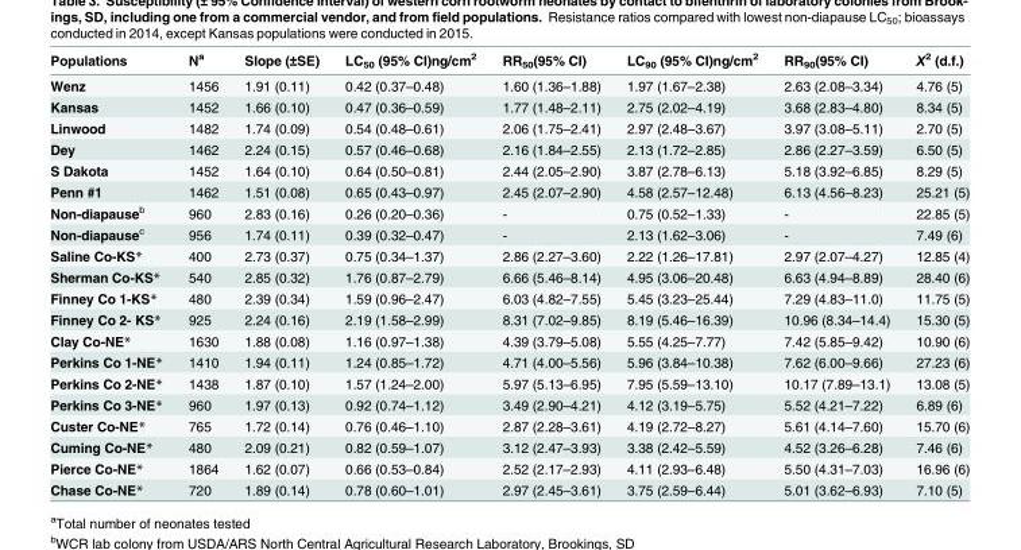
<table><thead><tr><td>Populations</td><td>N<sup>a</sup></td><td>Slope (±SE)</td><td>LC<sub>50</sub> (95% CI)ng/cm<sup>2</sup></td><td>RR<sub>50</sub>(95% CI)</td><td>LC<sub>90</sub> (95% CI)ng/cm<sup>2</sup></td><td>RR<sub>90</sub>(95% CI)</td><td>X<sup>2</sup> (d.f.)</td></tr></thead><tbody><tr><td>Wenz</td><td>1456</td><td>1.91 (0.11)</td><td>0.42 (0.37–0.48)</td><td>1.60 (1.36–1.88)</td><td>1.97 (1.67–2.38)</td><td>2.63 (2.08–3.34)</td><td>4.76 (5)</td></tr><tr><td>Kansas</td><td>1452</td><td>1.66 (0.10)</td><td>0.47 (0.36–0.59)</td><td>1.77 (1.48–2.11)</td><td>2.75 (2.02–4.19)</td><td>3.68 (2.83–4.80)</td><td>8.34 (5)</td></tr><tr><td>Linwood</td><td>1482</td><td>1.74 (0.09)</td><td>0.54 (0.48–0.61)</td><td>2.06 (1.75–2.41)</td><td>2.97 (2.48–3.67)</td><td>3.97 (3.08–5.11)</td><td>2.70 (5)</td></tr><tr><td>Dey</td><td>1462</td><td>2.24 (0.15)</td><td>0.57 (0.46–0.68)</td><td>2.16 (1.84–2.55)</td><td>2.13 (1.72–2.85)</td><td>2.86 (2.27–3.59)</td><td>6.50 (5)</td></tr><tr><td>S Dakota</td><td>1452</td><td>1.64 (0.10)</td><td>0.64 (0.50–0.81)</td><td>2.44 (2.05–2.90)</td><td>3.87 (2.78–6.13)</td><td>5.18 (3.92–6.85)</td><td>8.29 (5)</td></tr><tr><td>Penn #1</td><td>1462</td><td>1.51 (0.08)</td><td>0.65 (0.43–0.97)</td><td>2.45 (2.07–2.90)</td><td>4.58 (2.57–12.48)</td><td>6.13 (4.56–8.23)</td><td>25.21 (5)</td></tr><tr><td>Non-diapause<sup>b</sup></td><td>960</td><td>2.83 (0.16)</td><td>0.26 (0.20–0.36)</td><td>-</td><td>0.75 (0.52–1.33)</td><td>-</td><td>22.85 (5)</td></tr><tr><td>Non-diapause<sup>c</sup></td><td>956</td><td>1.74 (0.11)</td><td>0.39 (0.32–0.47)</td><td>-</td><td>2.13 (1.62–3.06)</td><td>-</td><td>7.49 (6)</td></tr><tr><td>Saline Co-KS*</td><td>400</td><td>2.73 (0.37)</td><td>0.75 (0.34–1.37)</td><td>2.86 (2.27–3.60)</td><td>2.22 (1.26–17.81)</td><td>2.97 (2.07–4.27)</td><td>12.85 (4)</td></tr><tr><td>Sherman Co-KS*</td><td>540</td><td>2.85 (0.32)</td><td>1.76 (0.87–2.79)</td><td>6.66 (5.46–8.14)</td><td>4.95 (3.06–20.48)</td><td>6.63 (4.94–8.89)</td><td>28.40 (6)</td></tr><tr><td>Finney Co 1-KS*</td><td>480</td><td>2.39 (0.34)</td><td>1.59 (0.96–2.47)</td><td>6.03 (4.82–7.55)</td><td>5.45 (3.23–25.44)</td><td>7.29 (4.83–11.0)</td><td>11.75 (5)</td></tr><tr><td>Finney Co 2- KS*</td><td>925</td><td>2.24 (0.16)</td><td>2.19 (1.58–2.99)</td><td>8.31 (7.02–9.85)</td><td>8.19 (5.46–16.39)</td><td>10.96 (8.34–14.4)</td><td>15.30 (5)</td></tr><tr><td>Clay Co-NE*</td><td>1630</td><td>1.88 (0.08)</td><td>1.16 (0.97–1.38)</td><td>4.39 (3.79–5.08)</td><td>5.55 (4.25–7.77)</td><td>7.42 (5.85–9.42)</td><td>10.90 (6)</td></tr><tr><td>Perkins Co 1-NE*</td><td>1410</td><td>1.94 (0.11)</td><td>1.24 (0.85–1.72)</td><td>4.71 (4.00–5.56)</td><td>5.96 (3.84–10.38)</td><td>7.62 (6.00–9.66)</td><td>27.23 (6)</td></tr><tr><td>Perkins Co 2-NE*</td><td>1438</td><td>1.87 (0.10)</td><td>1.57 (1.24–2.00)</td><td>5.97 (5.13–6.95)</td><td>7.95 (5.59–13.10)</td><td>10.17 (7.89–13.1)</td><td>13.08 (5)</td></tr><tr><td>Perkins Co 3-NE*</td><td>960</td><td>1.97 (0.13)</td><td>0.92 (0.74–1.12)</td><td>3.49 (2.90–4.21)</td><td>4.12 (3.19–5.75)</td><td>5.52 (4.21–7.22)</td><td>6.89 (6)</td></tr><tr><td>Custer Co-NE*</td><td>765</td><td>1.72 (0.14)</td><td>0.76 (0.46–1.10)</td><td>2.87 (2.28–3.61)</td><td>4.19 (2.72–8.27)</td><td>5.61 (4.14–7.60)</td><td>15.70 (6)</td></tr><tr><td>Cuming Co-NE*</td><td>480</td><td>2.09 (0.21)</td><td>0.82 (0.59–1.07)</td><td>3.12 (2.47–3.93)</td><td>3.38 (2.42–5.59)</td><td>4.52 (3.26–6.28)</td><td>7.46 (6)</td></tr><tr><td>Pierce Co-NE*</td><td>1864</td><td>1.62 (0.07)</td><td>0.66 (0.53–0.84)</td><td>2.52 (2.17–2.93)</td><td>4.11 (2.93–6.48)</td><td>5.50 (4.31–7.03)</td><td>16.96 (6)</td></tr><tr><td>Chase Co-NE*</td><td>720</td><td>1.89 (0.14)</td><td>0.78 (0.60–1.01)</td><td>2.97 (2.45–3.61)</td><td>3.75 (2.59–6.44)</td><td>5.01 (3.62–6.93)</td><td>7.10 (5)</td></tr></tbody></table>